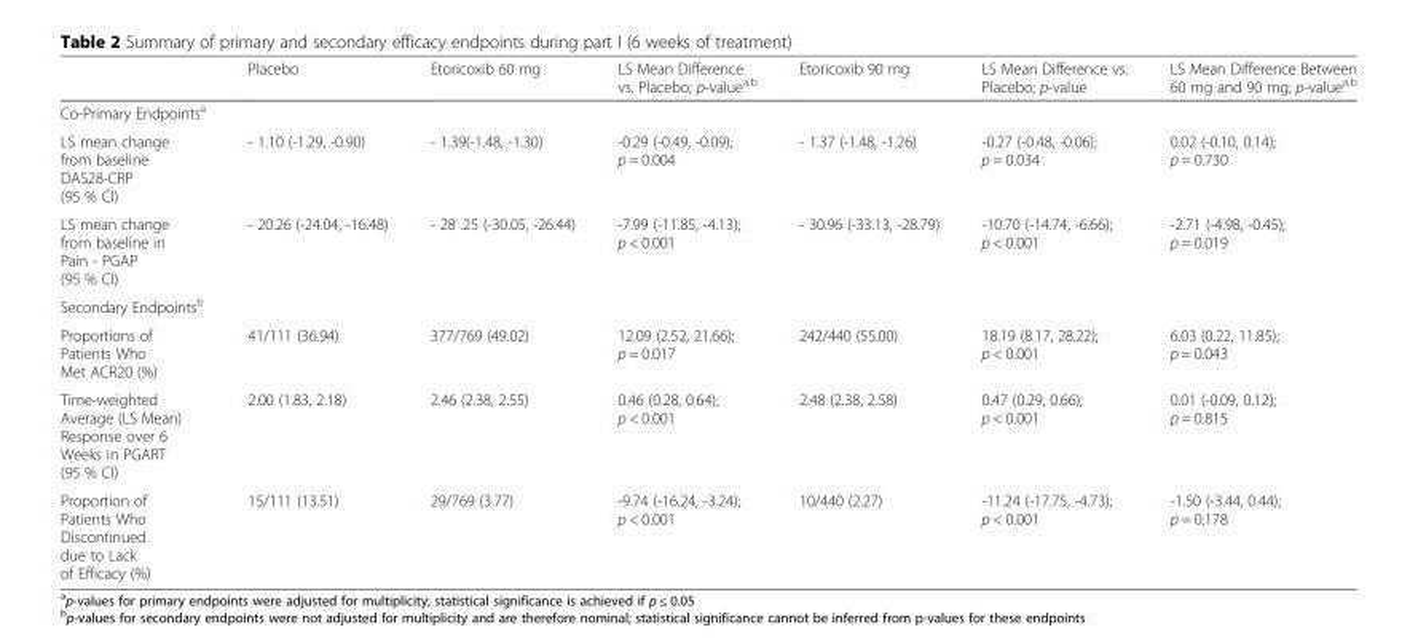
<table><thead><tr><td></td><td>Placebo</td><td>Etoricoxib 60 mg</td><td>LS Mean Difference vs. Placebo; p-value<sup>a,b</sup></td><td>Etoricoxib 90 mg</td><td>LS Mean Difference vs. Placebo; p-value</td><td>LS Mean Difference Between 60 mg and 90 mg; p-value<sup>a,b</sup></td></tr></thead><tbody><tr><td colspan="7">Co-Primary Endpoints<sup>a</sup></td></tr><tr><td>LS mean change from baseline DAS28-CRP (95 % CI)</td><td>- 1.10 (-1.29, -0.90)</td><td>- 1.39(-1.48, -1.30)</td><td>-0.29 (-0.49, -0.09); p = 0.004</td><td>- 1.37 (-1.48, -1.26)</td><td>-0.27 (-0.48, -0.06); p = 0.034</td><td>0.02 (-0.10, 0.14); p = 0.730</td></tr><tr><td>LS mean change from baseline in Pain - PGAP (95 % CI)</td><td>- 20.26 (-24.04, -16.48)</td><td>- 28 .25 (-30.05, -26.44)</td><td>-7.99 (-11.85, -4.13); p &lt; 0.001</td><td>- 30.96 (-33.13, -28.79)</td><td>-10.70 (-14.74, -6.66); p &lt; 0.001</td><td>-2.71 (-4.98, -0.45); p = 0.019</td></tr><tr><td colspan="7">Secondary Endpoints<sup>b</sup></td></tr><tr><td>Proportions of Patients Who Met ACR20 (%)</td><td>41/111 (36.94)</td><td>377/769 (49.02)</td><td>12.09 (2.52, 21.66); p = 0.017</td><td>242/440 (55.00)</td><td>18.19 (8.17, 28.22); p &lt; 0.001</td><td>6.03 (0.22, 11.85); p = 0.043</td></tr><tr><td>Time-weighted Average (LS Mean) Response over 6 Weeks in PGART (95 % CI)</td><td>2.00 (1.83, 2.18)</td><td>2.46 (2.38, 2.55)</td><td>0.46 (0.28, 0.64); p &lt; 0.001</td><td>2.48 (2.38, 2.58)</td><td>0.47 (0.29, 0.66); p &lt; 0.001</td><td>0.01 (-0.09, 0.12); p = 0.815</td></tr><tr><td>Proportion of Patients Who Discontinued due to Lack of Efficacy (%)</td><td>15/111 (13.51)</td><td>29/769 (3.77)</td><td>-9.74 (-16.24, -3.24); p &lt; 0.001</td><td>10/440 (2.27)</td><td>-11.24 (-17.75, -4.73); p &lt; 0.001</td><td>-1.50 (-3.44, 0.44); p = 0.178</td></tr></tbody></table>